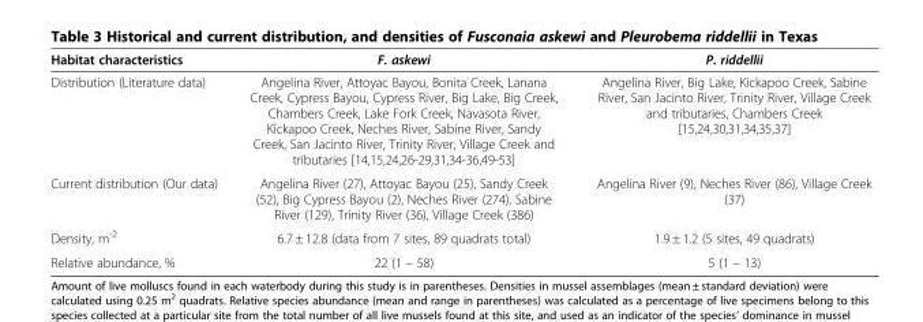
<table><thead><tr><td>Habitat characteristics</td><td>F. askewi</td><td>P. riddellii</td></tr></thead><tbody><tr><td>Distribution (Literature data)</td><td>Angelina River, Attoyac Bayou, Bonita Creek, Lanana Creek, Cypress Bayou, Cypress River, Big Lake, Big Creek, Chambers Creek, Lake Fork Creek, Navasota River, Kickapoo Creek, Neches River, Sabine River, Sandy Creek, San Jacinto River, Trinity River, Village Creek and tributaries [14,15,24,26-29,31,34-36,49-53]</td><td>Angelina River, Big Lake, Kickapoo Creek, Sabine River, San Jacinto River, Trinity River, Village Creek and tributaries, Chambers Creek [15,24,30,31,34,35,37]</td></tr><tr><td>Current distribution (Our data)</td><td>Angelina River (27), Attoyac Bayou (25), Sandy Creek (52), Big Cypress Bayou (2), Neches River (274), Sabine River (129), Trinity River (36), Village Creek (386)</td><td>Angelina River (9), Neches River (86), Village Creek (37)</td></tr><tr><td>Density, m<sup>-2</sup></td><td>6.7 ± 12.8 (data from 7 sites, 89 quadrats total)</td><td>1.9 ± 1.2 (5 sites, 49 quadrats)</td></tr><tr><td>Relative abundance, %</td><td>22 (1 – 58)</td><td>5 (1 – 13)</td></tr></tbody></table>